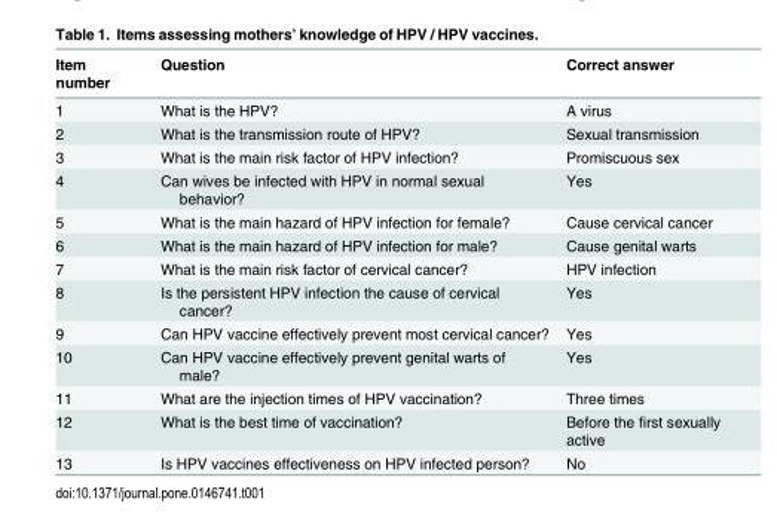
<table><thead><tr><td>Item number</td><td>Question</td><td>Correct answer</td></tr></thead><tbody><tr><td>1</td><td>What is the HPV?</td><td>A virus</td></tr><tr><td>2</td><td>What is the transmission route of HPV?</td><td>Sexual transmission</td></tr><tr><td>3</td><td>What is the main risk factor of HPV infection?</td><td>Promiscuous sex</td></tr><tr><td>4</td><td>Can wives be infected with HPV in normal sexual behavior?</td><td>Yes</td></tr><tr><td>5</td><td>What is the main hazard of HPV infection for female?</td><td>Cause cervical cancer</td></tr><tr><td>6</td><td>What is the main hazard of HPV infection for male?</td><td>Cause genital warts</td></tr><tr><td>7</td><td>What is the main risk factor of cervical cancer?</td><td>HPV infection</td></tr><tr><td>8</td><td>Is the persistent HPV infection the cause of cervical cancer?</td><td>Yes</td></tr><tr><td>9</td><td>Can HPV vaccine effectively prevent most cervical cancer?</td><td>Yes</td></tr><tr><td>10</td><td>Can HPV vaccine effectively prevent genital warts of male?</td><td>Yes</td></tr><tr><td>11</td><td>What are the injection times of HPV vaccination?</td><td>Three times</td></tr><tr><td>12</td><td>What is the best time of vaccination?</td><td>Before the first sexually active</td></tr><tr><td>13</td><td>Is HPV vaccines effectiveness on HPV infected person?</td><td>No</td></tr></tbody></table>